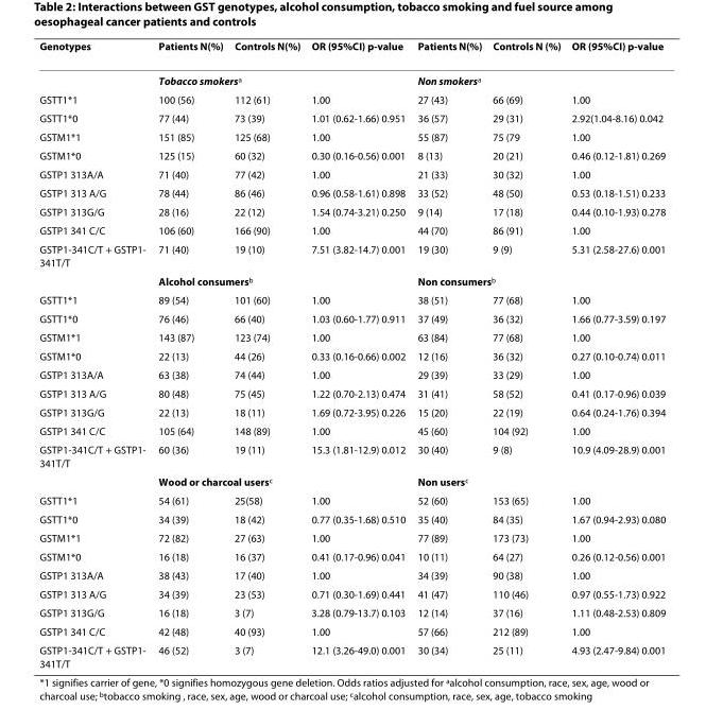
<table><thead><tr><td>Genotypes</td><td>Patients N(%)</td><td>Controls N(%)</td><td>OR (95%CI) p-value</td><td>Patients N(%)</td><td>Controls N (%)</td><td>OR (95%CI) p-value</td></tr></thead><tbody><tr><td></td><td colspan="3">Tobacco smokers<sup>a</sup></td><td colspan="3">Non smokers<sup>a</sup></td></tr><tr><td>GSTT1*1</td><td>100 (56)</td><td>112 (61)</td><td>1.00</td><td>27 (43)</td><td>66 (69)</td><td>1.00</td></tr><tr><td>GSTT1*0</td><td>77 (44)</td><td>73 (39)</td><td>1.01 (0.62-1.66) 0.951</td><td>36 (57)</td><td>29 (31)</td><td>2.92(1.04-8.16) 0.042</td></tr><tr><td>GSTM1*1</td><td>151 (85)</td><td>125 (68)</td><td>1.00</td><td>55 (87)</td><td>75 (79</td><td>1.00</td></tr><tr><td>GSTM1*0</td><td>125 (15)</td><td>60 (32)</td><td>0.30 (0.16-0.56) 0.001</td><td>8 (13)</td><td>20 (21)</td><td>0.46 (0.12-1.81) 0.269</td></tr><tr><td>GSTP1 313A/A</td><td>71 (40)</td><td>77 (42)</td><td>1.00</td><td>21 (33)</td><td>30 (32)</td><td>1.00</td></tr><tr><td>GSTP1 313 A/G</td><td>78 (44)</td><td>86 (46)</td><td>0.96 (0.58-1.61) 0.898</td><td>33 (52)</td><td>48 (50)</td><td>0.53 (0.18-1.51) 0.233</td></tr><tr><td>GSTP1 313G/G</td><td>28 (16)</td><td>22 (12)</td><td>1.54 (0.74-3.21) 0.250</td><td>9 (14)</td><td>17 (18)</td><td>0.44 (0.10-1.93) 0.278</td></tr><tr><td>GSTP1 341 C/C</td><td>106 (60)</td><td>166 (90)</td><td>1.00</td><td>44 (70)</td><td>86 (91)</td><td>1.00</td></tr><tr><td rowspan="2">GSTP1-341C/T + GSTP1- 341T/T</td><td>71 (40)</td><td>19 (10)</td><td>7.51 (3.82-14.7) 0.001</td><td>19 (30)</td><td>9 (9)</td><td>5.31 (2.58-27.6) 0.001</td></tr><tr><td colspan="3">Alcohol consumers<sup>b</sup></td><td colspan="3">Non consumers<sup>b</sup></td></tr><tr><td>GSTT1*1</td><td>89 (54)</td><td>101 (60)</td><td>1.00</td><td>38 (51)</td><td>77 (68)</td><td>1.00</td></tr><tr><td>GSTT1*0</td><td>76 (46)</td><td>66 (40)</td><td>1.03 (0.60-1.77) 0.911</td><td>37 (49)</td><td>36 (32)</td><td>1.66 (0.77-3.59) 0.197</td></tr><tr><td>GSTM1*1</td><td>143 (87)</td><td>123 (74)</td><td>1.00</td><td>63 (84)</td><td>77 (68)</td><td>1.00</td></tr><tr><td>GSTM1*0</td><td>22 (13)</td><td>44 (26)</td><td>0.33 (0.16-0.66) 0.002</td><td>12 (16)</td><td>36 (32)</td><td>0.27 (0.10-0.74) 0.011</td></tr><tr><td>GSTP1 313A/A</td><td>63 (38)</td><td>74 (44)</td><td>1.00</td><td>29 (39)</td><td>33 (29)</td><td>1.00</td></tr><tr><td>GSTP1 313 A/G</td><td>80 (48)</td><td>75 (45)</td><td>1.22 (0.70-2.13) 0.474</td><td>31 (41)</td><td>58 (52)</td><td>0.41 (0.17-0.96) 0.039</td></tr><tr><td>GSTP1 313G/G</td><td>22 (13)</td><td>18 (11)</td><td>1.69 (0.72-3.95) 0.226</td><td>15 (20)</td><td>22 (19)</td><td>0.64 (0.24-1.76) 0.394</td></tr><tr><td>GSTP1 341 C/C</td><td>105 (64)</td><td>148 (89)</td><td>1.00</td><td>45 (60)</td><td>104 (92)</td><td>1.00</td></tr><tr><td rowspan="2">GSTP1-341C/T + GSTP1- 341T/T</td><td>60 (36)</td><td>19 (11)</td><td>15.3 (1.81-12.9) 0.012</td><td>30 (40)</td><td>9 (8)</td><td>10.9 (4.09-28.9) 0.001</td></tr><tr><td colspan="3">Wood or charcoal users<sup>c</sup></td><td colspan="3">Non users<sup>c</sup></td></tr><tr><td>GSTT1*1</td><td>54 (61)</td><td>25(58)</td><td>1.00</td><td>52 (60)</td><td>153 (65)</td><td>1.00</td></tr><tr><td>GSTT1*0</td><td>34 (39)</td><td>18 (42)</td><td>0.77 (0.35-1.68) 0.510</td><td>35 (40)</td><td>84 (35)</td><td>1.67 (0.94-2.93) 0.080</td></tr><tr><td>GSTM1*1</td><td>72 (82)</td><td>27 (63)</td><td>1.00</td><td>77 (89)</td><td>173 (73)</td><td>1.00</td></tr><tr><td>GSTM1*0</td><td>16 (18)</td><td>16 (37)</td><td>0.41 (0.17-0.96) 0.041</td><td>10 (11)</td><td>64 (27)</td><td>0.26 (0.12-0.56) 0.001</td></tr><tr><td>GSTP1 313A/A</td><td>38 (43)</td><td>17 (40)</td><td>1.00</td><td>34 (39)</td><td>90 (38)</td><td>1.00</td></tr><tr><td>GSTP1 313 A/G</td><td>34 (39)</td><td>23 (53)</td><td>0.71 (0.30-1.69) 0.441</td><td>41 (47)</td><td>110 (46)</td><td>0.97 (0.55-1.73) 0.922</td></tr><tr><td>GSTP1 313G/G</td><td>16 (18)</td><td>3 (7)</td><td>3.28 (0.79-13.7) 0.103</td><td>12 (14)</td><td>37 (16)</td><td>1.11 (0.48-2.53) 0.809</td></tr><tr><td>GSTP1 341 C/C</td><td>42 (48)</td><td>40 (93)</td><td>1.00</td><td>57 (66)</td><td>212 (89)</td><td>1.00</td></tr><tr><td>GSTP1-341C/T + GSTP1- 341T/T</td><td>46 (52)</td><td>3 (7)</td><td>12.1 (3.26-49.0) 0.001</td><td>30 (34)</td><td>25 (11)</td><td>4.93 (2.47-9.84) 0.001</td></tr></tbody></table>